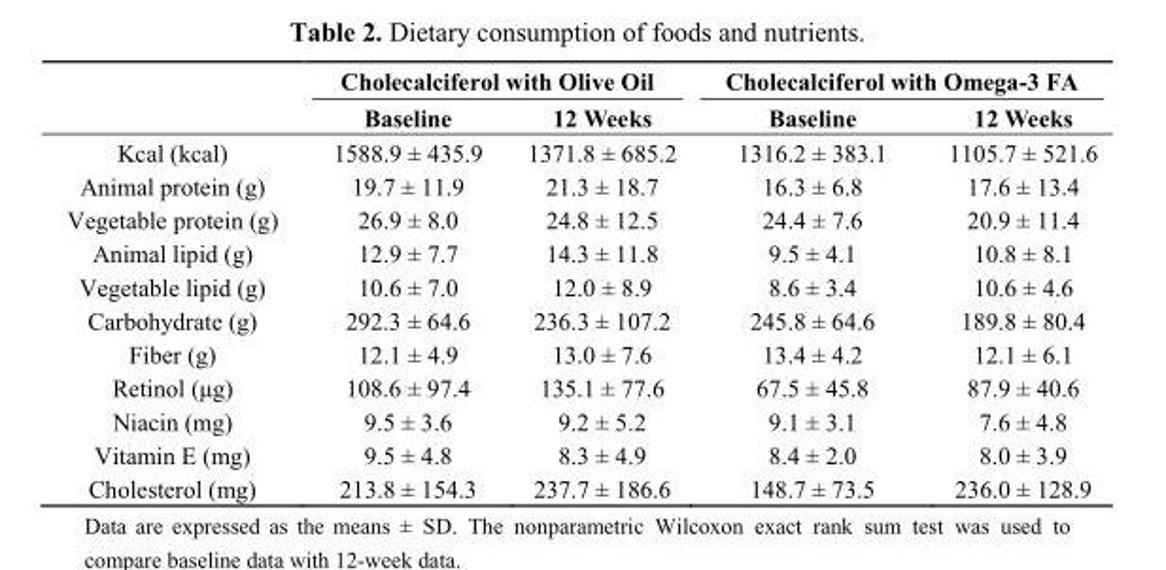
<table><thead><tr><td rowspan="2"></td><td colspan="2">Cholecalciferol with Olive Oil</td><td colspan="2">Cholecalciferol with Omega-3 FA</td></tr><tr><td>Baseline</td><td>12 Weeks</td><td>Baseline</td><td>12 Weeks</td></tr></thead><tbody><tr><td>Kcal (kcal)</td><td>1588.9 ± 435.9</td><td>1371.8 ± 685.2</td><td>1316.2 ± 383.1</td><td>1105.7 ± 521.6</td></tr><tr><td>Animal protein (g)</td><td>19.7 ± 11.9</td><td>21.3 ± 18.7</td><td>16.3 ± 6.8</td><td>17.6 ± 13.4</td></tr><tr><td>Vegetable protein (g)</td><td>26.9 ± 8.0</td><td>24.8 ± 12.5</td><td>24.4 ± 7.6</td><td>20.9 ± 11.4</td></tr><tr><td>Animal lipid (g)</td><td>12.9 ± 7.7</td><td>14.3 ± 11.8</td><td>9.5 ± 4.1</td><td>10.8 ± 8.1</td></tr><tr><td>Vegetable lipid (g)</td><td>10.6 ± 7.0</td><td>12.0 ± 8.9</td><td>8.6 ± 3.4</td><td>10.6 ± 4.6</td></tr><tr><td>Carbohydrate (g)</td><td>292.3 ± 64.6</td><td>236.3 ± 107.2</td><td>245.8 ± 64.6</td><td>189.8 ± 80.4</td></tr><tr><td>Fiber (g)</td><td>12.1 ± 4.9</td><td>13.0 ± 7.6</td><td>13.4 ± 4.2</td><td>12.1 ± 6.1</td></tr><tr><td>Retinol (μg)</td><td>108.6 ± 97.4</td><td>135.1 ± 77.6</td><td>67.5 ± 45.8</td><td>87.9 ± 40.6</td></tr><tr><td>Niacin (mg)</td><td>9.5 ± 3.6</td><td>9.2 ± 5.2</td><td>9.1 ± 3.1</td><td>7.6 ± 4.8</td></tr><tr><td>Vitamin E (mg)</td><td>9.5 ± 4.8</td><td>8.3 ± 4.9</td><td>8.4 ± 2.0</td><td>8.0 ± 3.9</td></tr><tr><td>Cholesterol (mg)</td><td>213.8 ± 154.3</td><td>237.7 ± 186.6</td><td>148.7 ± 73.5</td><td>236.0 ± 128.9</td></tr></tbody></table>